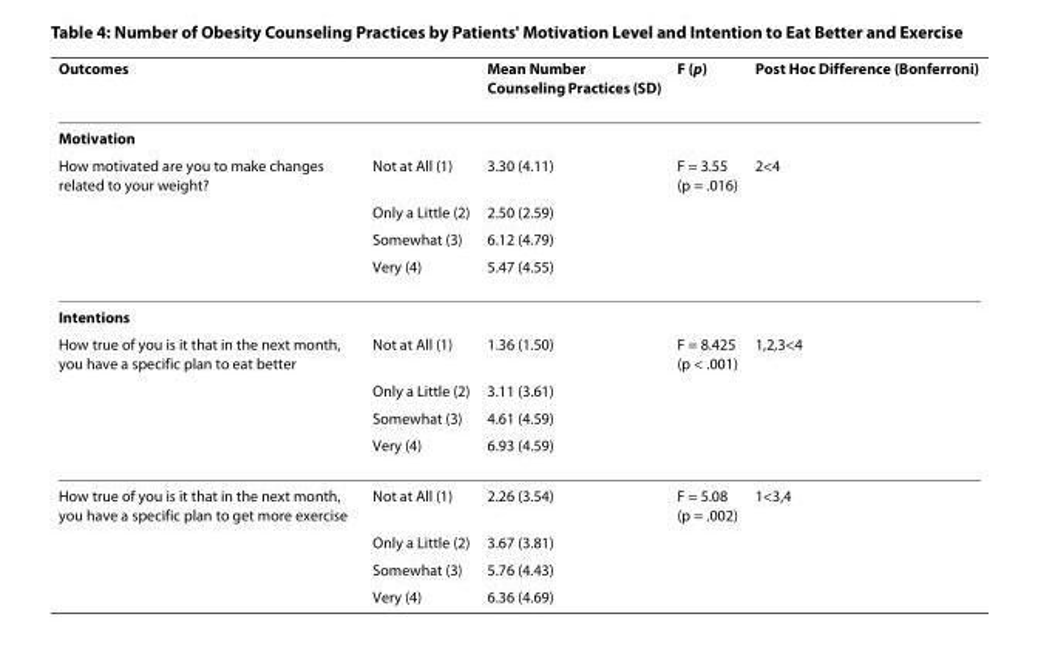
<table><thead><tr><td>Outcomes</td><td></td><td>Mean Number Counseling Practices (SD)</td><td>F (p)</td><td>Post Hoc Difference (Bonferroni)</td></tr></thead><tbody><tr><td colspan="5">Motivation</td></tr><tr><td rowspan="4">How motivated are you to make changes related to your weight?</td><td>Not at All (1)</td><td>3.30 (4.11)</td><td>F = 3.55 (p = .016)</td><td>2&lt;4</td></tr><tr><td>Only a Little (2)</td><td>2.50 (2.59)</td><td></td><td></td></tr><tr><td>Somewhat (3)</td><td>6.12 (4.79)</td><td></td><td></td></tr><tr><td>Very (4)</td><td>5.47 (4.55)</td><td></td><td></td></tr><tr><td colspan="5">Intentions</td></tr><tr><td rowspan="4">How true of you is it that in the next month, you have a specific plan to eat better</td><td>Not at All (1)</td><td>1.36 (1.50)</td><td>F = 8.425 (p &lt; .001)</td><td>1,2,3&lt;4</td></tr><tr><td>Only a Little (2)</td><td>3.11 (3.61)</td><td></td><td></td></tr><tr><td>Somewhat (3)</td><td>4.61 (4.59)</td><td></td><td></td></tr><tr><td>Very (4)</td><td>6.93 (4.59)</td><td></td><td></td></tr><tr><td rowspan="4">How true of you is it that in the next month, you have a specific plan to get more exercise</td><td>Not at All (1)</td><td>2.26 (3.54)</td><td>F = 5.08 (p = .002)</td><td>1&lt;3,4</td></tr><tr><td>Only a Little (2)</td><td>3.67 (3.81)</td><td></td><td></td></tr><tr><td>Somewhat (3)</td><td>5.76 (4.43)</td><td></td><td></td></tr><tr><td>Very (4)</td><td>6.36 (4.69)</td><td></td><td></td></tr></tbody></table>